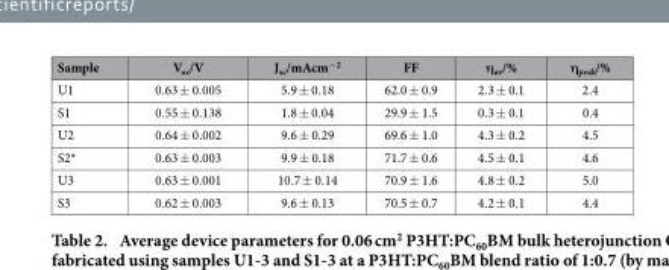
<table><thead><tr><td>Sample</td><td>V<sub>oc</sub>/V</td><td>J<sub>sc</sub>/mAcm<sup>−2</sup></td><td>FF</td><td>η<sub>av</sub>/%</td><td>η<sub>peak</sub>/%</td></tr></thead><tbody><tr><td>U1</td><td>0.63 ± 0.005</td><td>5.9 ± 0.18</td><td>62.0 ± 0.9</td><td>2.3 ± 0.1</td><td>2.4</td></tr><tr><td>S1</td><td>0.55 ± 0.138</td><td>1.8 ± 0.04</td><td>29.9 ± 1.5</td><td>0.3 ± 0.1</td><td>0.4</td></tr><tr><td>U2</td><td>0.64 ± 0.002</td><td>9.6 ± 0.29</td><td>69.6 ± 1.0</td><td>4.3 ± 0.2</td><td>4.5</td></tr><tr><td>S2*</td><td>0.63 ± 0.003</td><td>9.9 ± 0.18</td><td>71.7 ± 0.6</td><td>4.5 ± 0.1</td><td>4.6</td></tr><tr><td>U3</td><td>0.63 ± 0.001</td><td>10.7 ± 0.14</td><td>70.9 ± 1.6</td><td>4.8 ± 0.2</td><td>5.0</td></tr><tr><td>S3</td><td>0.62 ± 0.003</td><td>9.6 ± 0.13</td><td>70.5 ± 0.7</td><td>4.2 ± 0.1</td><td>4.4</td></tr></tbody></table>